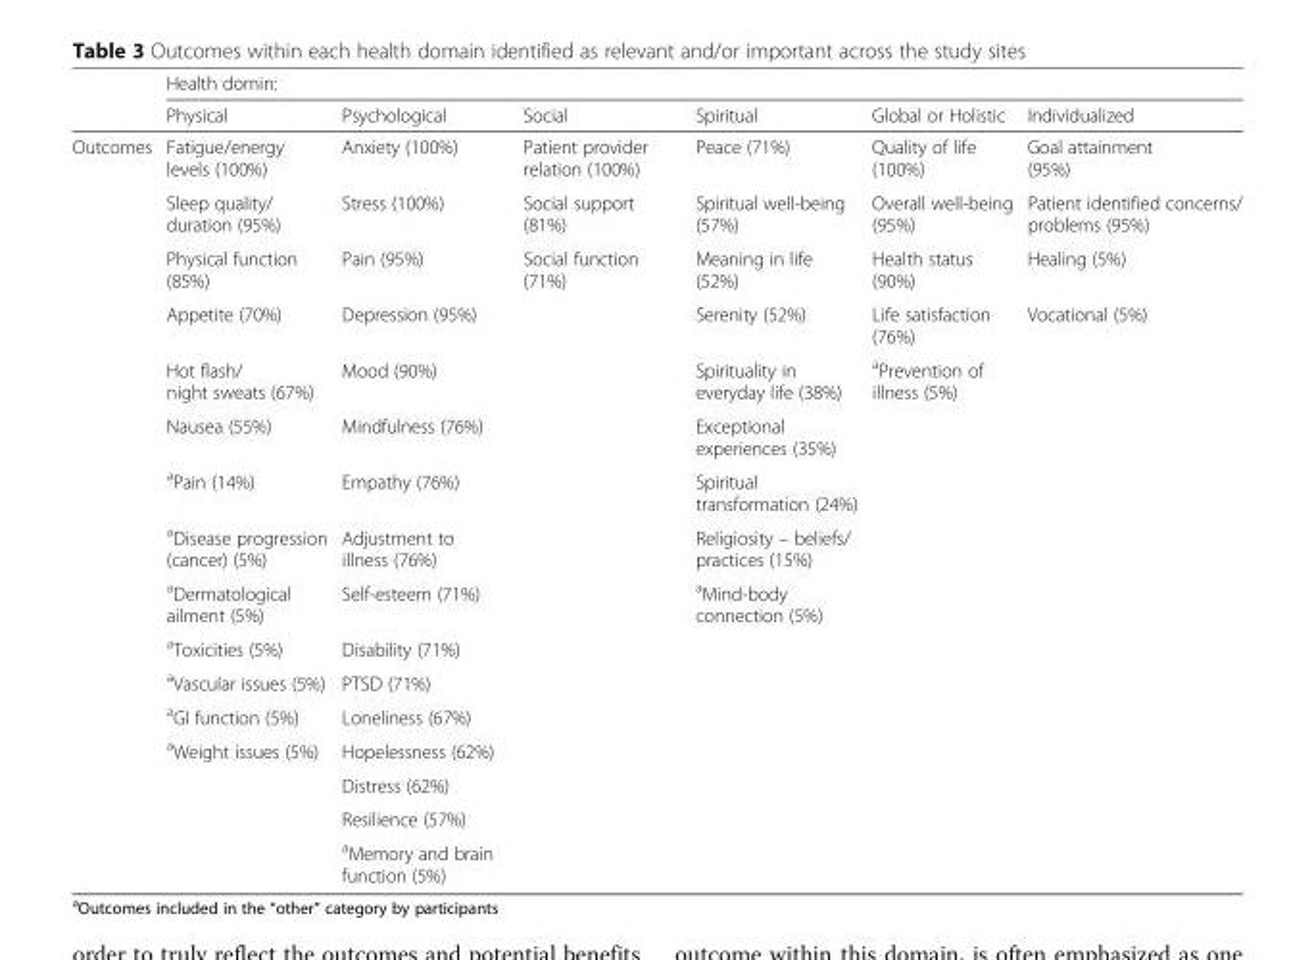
<table><thead><tr><td rowspan="2"></td><td colspan="6">Health domin:</td></tr><tr><td>Physical</td><td>Psychological</td><td>Social</td><td>Spiritual</td><td>Global or Holistic</td><td>Individualized</td></tr></thead><tbody><tr><td rowspan="16">Outcomes</td><td>Fatigue/energy levels (100%)</td><td>Anxiety (100%)</td><td>Patient provider relation (100%)</td><td>Peace (71%)</td><td>Quality of life (100%)</td><td>Goal attainment (95%)</td></tr><tr><td>Sleep quality/ duration (95%)</td><td>Stress (100%)</td><td>Social support (81%)</td><td>Spiritual well-being (57%)</td><td>Overall well-being (95%)</td><td>Patient identified concerns/ problems (95%)</td></tr><tr><td>Physical function (85%)</td><td>Pain (95%)</td><td>Social function (71%)</td><td>Meaning in life (52%)</td><td>Health status (90%)</td><td>Healing (5%)</td></tr><tr><td>Appetite (70%)</td><td>Depression (95%)</td><td></td><td>Serenity (52%)</td><td>Life satisfaction (76%)</td><td>Vocational (5%)</td></tr><tr><td>Hot flash/ night sweats (67%)</td><td>Mood (90%)</td><td></td><td>Spirituality in everyday life (38%)</td><td><sup>a</sup>Prevention of illness (5%)</td><td></td></tr><tr><td>Nausea (55%)</td><td>Mindfulness (76%)</td><td></td><td>Exceptional experiences (35%)</td><td></td><td></td></tr><tr><td><sup>a</sup>Pain (14%)</td><td>Empathy (76%)</td><td></td><td>Spiritual transformation (24%)</td><td></td><td></td></tr><tr><td><sup>a</sup>Disease progression (cancer) (5%)</td><td>Adjustment to illness (76%)</td><td></td><td>Religiosity – beliefs/ practices (15%)</td><td></td><td></td></tr><tr><td><sup>a</sup>Dermatological ailment (5%)</td><td>Self-esteem (71%)</td><td></td><td><sup>a</sup>Mind-body connection (5%)</td><td></td><td></td></tr><tr><td><sup>a</sup>Toxicities (5%)</td><td>Disability (71%)</td><td></td><td></td><td></td><td></td></tr><tr><td><sup>a</sup>Vascular issues (5%)</td><td>PTSD (71%)</td><td></td><td></td><td></td><td></td></tr><tr><td><sup>a</sup>GI function (5%)</td><td>Loneliness (67%)</td><td></td><td></td><td></td><td></td></tr><tr><td><sup>a</sup>Weight issues (5%)</td><td>Hopelessness (62%)</td><td></td><td></td><td></td><td></td></tr><tr><td></td><td>Distress (62%)</td><td></td><td></td><td></td><td></td></tr><tr><td></td><td>Resilience (57%)</td><td></td><td></td><td></td><td></td></tr><tr><td></td><td><sup>a</sup>Memory and brain function (5%)</td><td></td><td></td><td></td><td></td></tr></tbody></table>